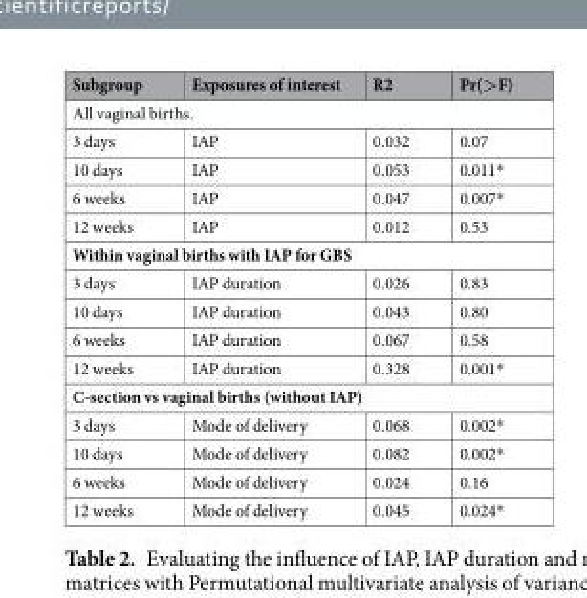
<table><thead><tr><td>Subgroup</td><td>Exposures of interest</td><td>R2</td><td>Pr(&gt;F)</td></tr></thead><tbody><tr><td colspan="4">All vaginal births.</td></tr><tr><td>3 days</td><td>IAP</td><td>0.032</td><td>0.07</td></tr><tr><td>10 days</td><td>IAP</td><td>0.053</td><td>0.011*</td></tr><tr><td>6 weeks</td><td>IAP</td><td>0.047</td><td>0.007*</td></tr><tr><td>12 weeks</td><td>IAP</td><td>0.012</td><td>0.53</td></tr><tr><td colspan="4">Within vaginal births with IAP for GBS</td></tr><tr><td>3 days</td><td>IAP duration</td><td>0.026</td><td>0.83</td></tr><tr><td>10 days</td><td>IAP duration</td><td>0.043</td><td>0.80</td></tr><tr><td>6 weeks</td><td>IAP duration</td><td>0.067</td><td>0.58</td></tr><tr><td>12 weeks</td><td>IAP duration</td><td>0.328</td><td>0.001*</td></tr><tr><td colspan="4">C-section vs vaginal births (without IAP)</td></tr><tr><td>3 days</td><td>Mode of delivery</td><td>0.068</td><td>0.002*</td></tr><tr><td>10 days</td><td>Mode of delivery</td><td>0.082</td><td>0.002*</td></tr><tr><td>6 weeks</td><td>Mode of delivery</td><td>0.024</td><td>0.16</td></tr><tr><td>12 weeks</td><td>Mode of delivery</td><td>0.045</td><td>0.024*</td></tr></tbody></table>